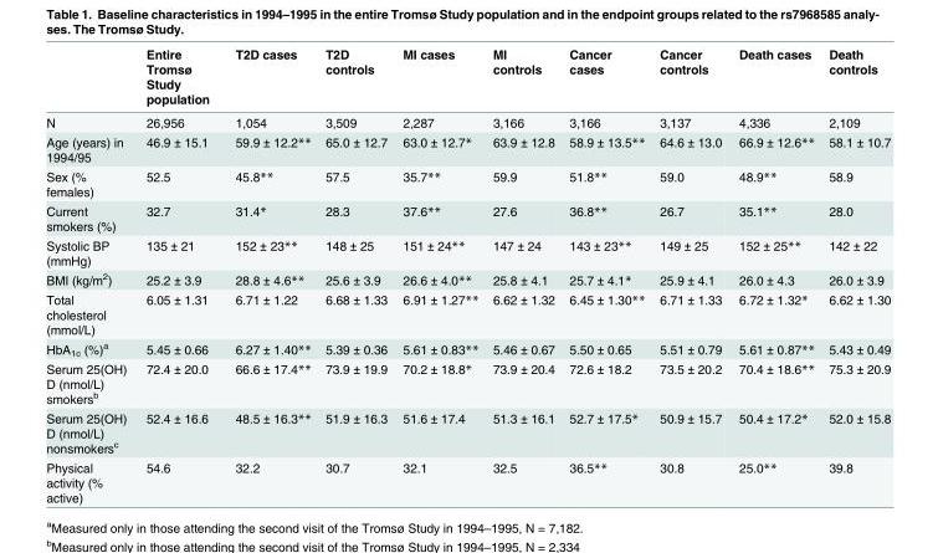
<table><thead><tr><td></td><td>Entire Tromsø Study population</td><td>T2D cases</td><td>T2D controls</td><td>MI cases</td><td>MI controls</td><td>Cancer cases</td><td>Cancer controls</td><td>Death cases</td><td>Death controls</td></tr></thead><tbody><tr><td>N</td><td>26,956</td><td>1,054</td><td>3,509</td><td>2,287</td><td>3,166</td><td>3,166</td><td>3,137</td><td>4,336</td><td>2,109</td></tr><tr><td>Age (years) in 1994/95</td><td>46.9 ± 15.1</td><td>59.9 ± 12.2**</td><td>65.0 ± 12.7</td><td>63.0 ± 12.7*</td><td>63.9 ± 12.8</td><td>58.9 ± 13.5**</td><td>64.6 ± 13.0</td><td>66.9 ± 12.6**</td><td>58.1 ± 10.7</td></tr><tr><td>Sex (% females)</td><td>52.5</td><td>45.8**</td><td>57.5</td><td>35.7**</td><td>59.9</td><td>51.8**</td><td>59.0</td><td>48.9**</td><td>58.9</td></tr><tr><td>Current smokers (%)</td><td>32.7</td><td>31.4*</td><td>28.3</td><td>37.6**</td><td>27.6</td><td>36.8**</td><td>26.7</td><td>35.1**</td><td>28.0</td></tr><tr><td>Systolic BP (mmHg)</td><td>135 ± 21</td><td>152 ± 23**</td><td>148 ± 25</td><td>151 ± 24**</td><td>147 ± 24</td><td>143 ± 23**</td><td>149 ± 25</td><td>152 ± 25**</td><td>142 ± 22</td></tr><tr><td>BMI (kg/m<sup>2</sup>)</td><td>25.2 ± 3.9</td><td>28.8 ± 4.6**</td><td>25.6 ± 3.9</td><td>26.6 ± 4.0**</td><td>25.8 ± 4.1</td><td>25.7 ± 4.1*</td><td>25.9 ± 4.1</td><td>26.0 ± 4.3</td><td>26.0 ± 3.9</td></tr><tr><td>Total cholesterol (mmol/L)</td><td>6.05 ± 1.31</td><td>6.71 ± 1.22</td><td>6.68 ± 1.33</td><td>6.91 ± 1.27**</td><td>6.62 ± 1.32</td><td>6.45 ± 1.30**</td><td>6.71 ± 1.33</td><td>6.72 ± 1.32*</td><td>6.62 ± 1.30</td></tr><tr><td>HbA<sub>1c</sub> (%)<sup>a</sup></td><td>5.45 ± 0.66</td><td>6.27 ± 1.40**</td><td>5.39 ± 0.36</td><td>5.61 ± 0.83**</td><td>5.46 ± 0.67</td><td>5.50 ± 0.65</td><td>5.51 ± 0.79</td><td>5.61 ± 0.87**</td><td>5.43 ± 0.49</td></tr><tr><td>Serum 25(OH) D (nmol/L) smokers<sup>b</sup></td><td>72.4 ± 20.0</td><td>66.6 ± 17.4**</td><td>73.9 ± 19.9</td><td>70.2 ± 18.8*</td><td>73.9 ± 20.4</td><td>72.6 ± 18.2</td><td>73.5 ± 20.2</td><td>70.4 ± 18.6**</td><td>75.3 ± 20.9</td></tr><tr><td>Serum 25(OH) D (nmol/L) nonsmokers<sup>c</sup></td><td>52.4 ± 16.6</td><td>48.5 ± 16.3**</td><td>51.9 ± 16.3</td><td>51.6 ± 17.4</td><td>51.3 ± 16.1</td><td>52.7 ± 17.5*</td><td>50.9 ± 15.7</td><td>50.4 ± 17.2*</td><td>52.0 ± 15.8</td></tr><tr><td>Physical activity (% active)</td><td>54.6</td><td>32.2</td><td>30.7</td><td>32.1</td><td>32.5</td><td>36.5**</td><td>30.8</td><td>25.0**</td><td>39.8</td></tr></tbody></table>